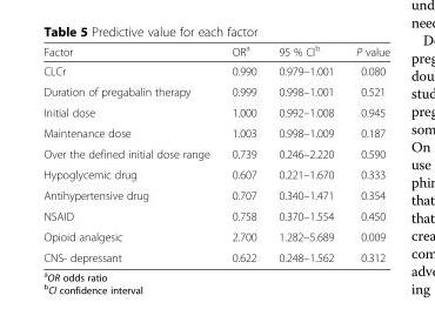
<table><thead><tr><td>Factor</td><td>OR<sup>a</sup></td><td>95 % CI<sup>b</sup></td><td>P value</td></tr></thead><tbody><tr><td>CLCr</td><td>0.990</td><td>0.979–1.001</td><td>0.080</td></tr><tr><td>Duration of pregabalin therapy</td><td>0.999</td><td>0.998–1.001</td><td>0.521</td></tr><tr><td>Initial dose</td><td>1.000</td><td>0.992–1.008</td><td>0.945</td></tr><tr><td>Maintenance dose</td><td>1.003</td><td>0.998–1.009</td><td>0.187</td></tr><tr><td>Over the defined initial dose range</td><td>0.739</td><td>0.246–2.220</td><td>0.590</td></tr><tr><td>Hypoglycemic drug</td><td>0.607</td><td>0.221–1.670</td><td>0.333</td></tr><tr><td>Antihypertensive drug</td><td>0.707</td><td>0.340–1.471</td><td>0.354</td></tr><tr><td>NSAID</td><td>0.758</td><td>0.370–1.554</td><td>0.450</td></tr><tr><td>Opioid analgesic</td><td>2.700</td><td>1.282–5.689</td><td>0.009</td></tr><tr><td>CNS- depressant</td><td>0.622</td><td>0.248–1.562</td><td>0.312</td></tr></tbody></table>